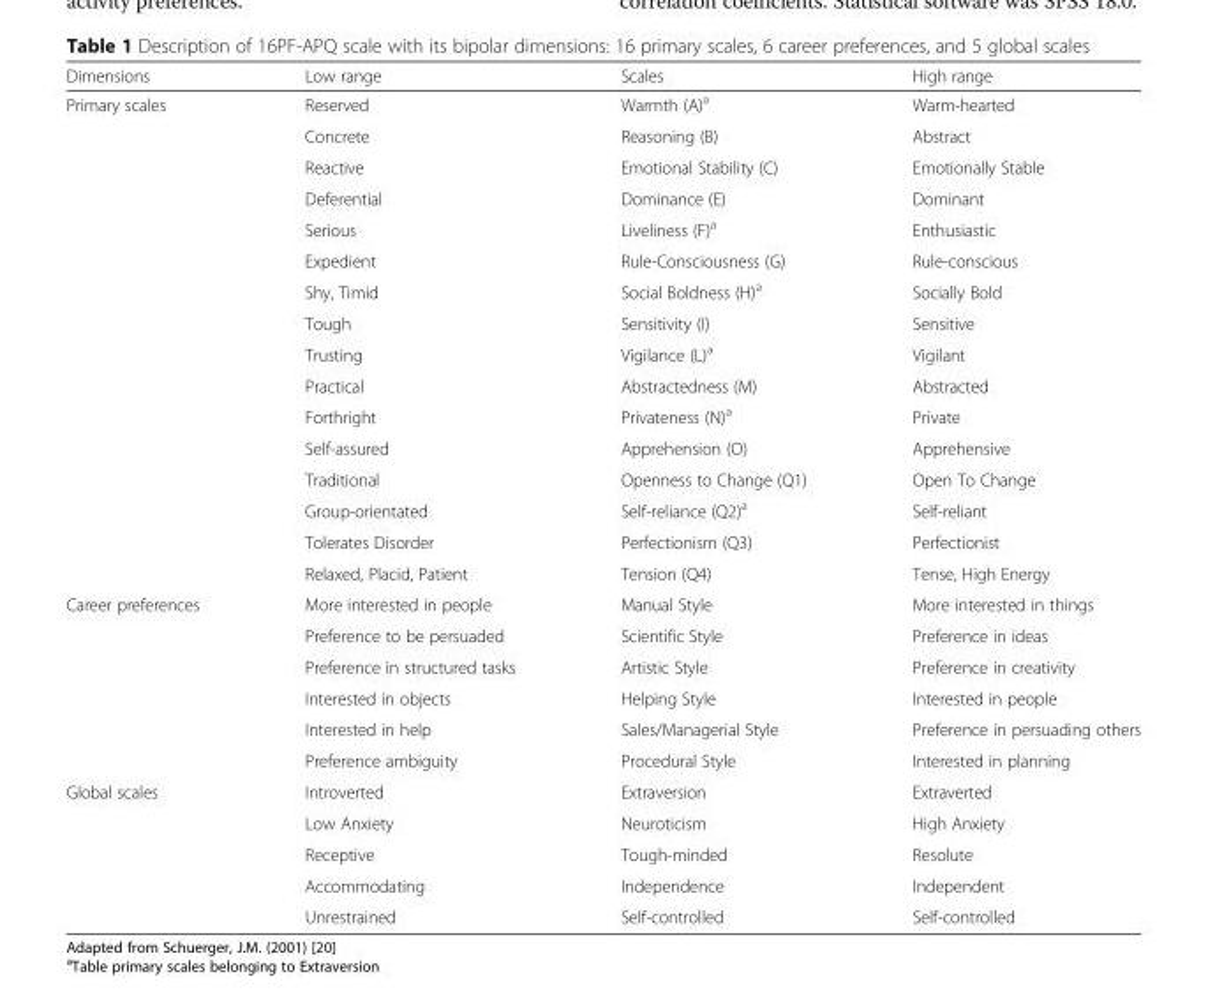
<table><thead><tr><td>Dimensions</td><td>Low range</td><td>Scales</td><td>High range</td></tr></thead><tbody><tr><td rowspan="16">Primary scales</td><td>Reserved</td><td>Warmth (A)<sup>a</sup></td><td>Warm-hearted</td></tr><tr><td>Concrete</td><td>Reasoning (B)</td><td>Abstract</td></tr><tr><td>Reactive</td><td>Emotional Stability (C)</td><td>Emotionally Stable</td></tr><tr><td>Deferential</td><td>Dominance (E)</td><td>Dominant</td></tr><tr><td>Serious</td><td>Liveliness (F)<sup>a</sup></td><td>Enthusiastic</td></tr><tr><td>Expedient</td><td>Rule-Consciousness (G)</td><td>Rule-conscious</td></tr><tr><td>Shy, Timid</td><td>Social Boldness (H)<sup>a</sup></td><td>Socially Bold</td></tr><tr><td>Tough</td><td>Sensitivity (I)</td><td>Sensitive</td></tr><tr><td>Trusting</td><td>Vigilance (L)<sup>a</sup></td><td>Vigilant</td></tr><tr><td>Practical</td><td>Abstractedness (M)</td><td>Abstracted</td></tr><tr><td>Forthright</td><td>Privateness (N)<sup>a</sup></td><td>Private</td></tr><tr><td>Self-assured</td><td>Apprehension (O)</td><td>Apprehensive</td></tr><tr><td>Traditional</td><td>Openness to Change (Q1)</td><td>Open To Change</td></tr><tr><td>Group-orientated</td><td>Self-reliance (Q2)<sup>a</sup></td><td>Self-reliant</td></tr><tr><td>Tolerates Disorder</td><td>Perfectionism (Q3)</td><td>Perfectionist</td></tr><tr><td>Relaxed, Placid, Patient</td><td>Tension (Q4)</td><td>Tense, High Energy</td></tr><tr><td rowspan="6">Career preferences</td><td>More interested in people</td><td>Manual Style</td><td>More interested in things</td></tr><tr><td>Preference to be persuaded</td><td>Scientific Style</td><td>Preference in ideas</td></tr><tr><td>Preference in structured tasks</td><td>Artistic Style</td><td>Preference in creativity</td></tr><tr><td>Interested in objects</td><td>Helping Style</td><td>Interested in people</td></tr><tr><td>Interested in help</td><td>Sales/Managerial Style</td><td>Preference in persuading others</td></tr><tr><td>Preference ambiguity</td><td>Procedural Style</td><td>Interested in planning</td></tr><tr><td rowspan="5">Global scales</td><td>Introverted</td><td>Extraversion</td><td>Extraverted</td></tr><tr><td>Low Anxiety</td><td>Neuroticism</td><td>High Anxiety</td></tr><tr><td>Receptive</td><td>Tough-minded</td><td>Resolute</td></tr><tr><td>Accommodating</td><td>Independence</td><td>Independent</td></tr><tr><td>Unrestrained</td><td>Self-controlled</td><td>Self-controlled</td></tr></tbody></table>